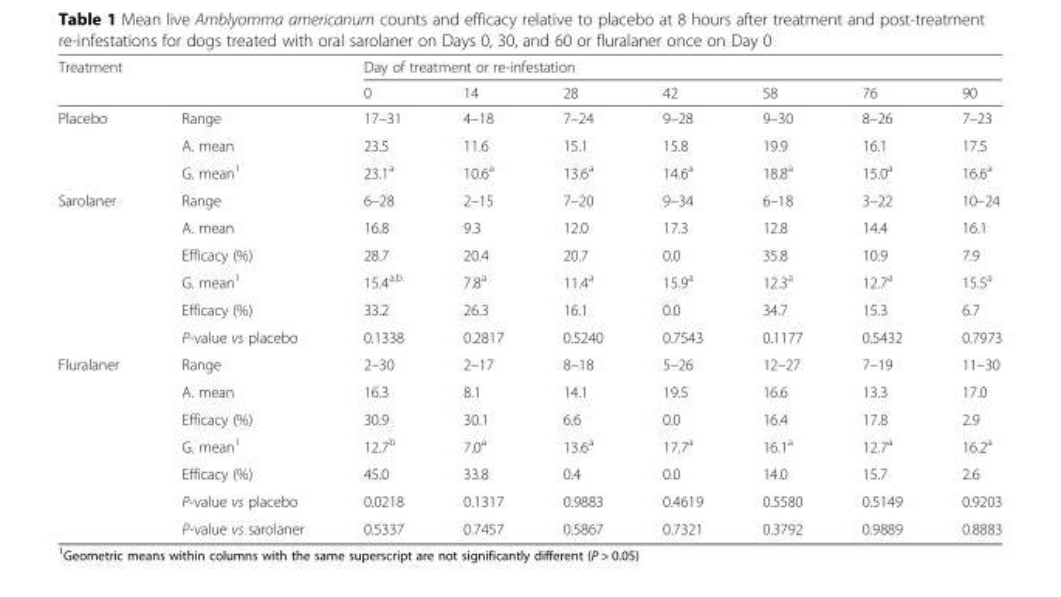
<table><thead><tr><td rowspan="2">Treatment</td><td rowspan="2"></td><td colspan="7">Day of treatment or re-infestation</td></tr><tr><td>0</td><td>14</td><td>28</td><td>42</td><td>58</td><td>76</td><td>90</td></tr></thead><tbody><tr><td rowspan="3">Placebo</td><td>Range</td><td>17–31</td><td>4–18</td><td>7–24</td><td>9–28</td><td>9–30</td><td>8–26</td><td>7–23</td></tr><tr><td>A. mean</td><td>23.5</td><td>11.6</td><td>15.1</td><td>15.8</td><td>19.9</td><td>16.1</td><td>17.5</td></tr><tr><td>G. mean<sup>1</sup></td><td>23.1<sup>a</sup></td><td>10.6<sup>a</sup></td><td>13.6<sup>a</sup></td><td>14.6<sup>a</sup></td><td>18.8<sup>a</sup></td><td>15.0<sup>a</sup></td><td>16.6<sup>a</sup></td></tr><tr><td rowspan="6">Sarolaner</td><td>Range</td><td>6–28</td><td>2–15</td><td>7–20</td><td>9–34</td><td>6–18</td><td>3–22</td><td>10–24</td></tr><tr><td>A. mean</td><td>16.8</td><td>9.3</td><td>12.0</td><td>17.3</td><td>12.8</td><td>14.4</td><td>16.1</td></tr><tr><td>Efficacy (%)</td><td>28.7</td><td>20.4</td><td>20.7</td><td>0.0</td><td>35.8</td><td>10.9</td><td>7.9</td></tr><tr><td>G. mean<sup>1</sup></td><td>15.4<sup>a,b</sup></td><td>7.8<sup>a</sup></td><td>11.4<sup>a</sup></td><td>15.9<sup>a</sup></td><td>12.3<sup>a</sup></td><td>12.7<sup>a</sup></td><td>15.5<sup>a</sup></td></tr><tr><td>Efficacy (%)</td><td>33.2</td><td>26.3</td><td>16.1</td><td>0.0</td><td>34.7</td><td>15.3</td><td>6.7</td></tr><tr><td>P-value vs placebo</td><td>0.1338</td><td>0.2817</td><td>0.5240</td><td>0.7543</td><td>0.1177</td><td>0.5432</td><td>0.7973</td></tr><tr><td rowspan="7">Fluralaner</td><td>Range</td><td>2–30</td><td>2–17</td><td>8–18</td><td>5–26</td><td>12–27</td><td>7–19</td><td>11–30</td></tr><tr><td>A. mean</td><td>16.3</td><td>8.1</td><td>14.1</td><td>19.5</td><td>16.6</td><td>13.3</td><td>17.0</td></tr><tr><td>Efficacy (%)</td><td>30.9</td><td>30.1</td><td>6.6</td><td>0.0</td><td>16.4</td><td>17.8</td><td>2.9</td></tr><tr><td>G. mean<sup>1</sup></td><td>12.7<sup>b</sup></td><td>7.0<sup>a</sup></td><td>13.6<sup>a</sup></td><td>17.7<sup>a</sup></td><td>16.1<sup>a</sup></td><td>12.7<sup>a</sup></td><td>16.2<sup>a</sup></td></tr><tr><td>Efficacy (%)</td><td>45.0</td><td>33.8</td><td>0.4</td><td>0.0</td><td>14.0</td><td>15.7</td><td>2.6</td></tr><tr><td>P-value vs placebo</td><td>0.0218</td><td>0.1317</td><td>0.9883</td><td>0.4619</td><td>0.5580</td><td>0.5149</td><td>0.9203</td></tr><tr><td>P-value vs sarolaner</td><td>0.5337</td><td>0.7457</td><td>0.5867</td><td>0.7321</td><td>0.3792</td><td>0.9889</td><td>0.8883</td></tr></tbody></table>